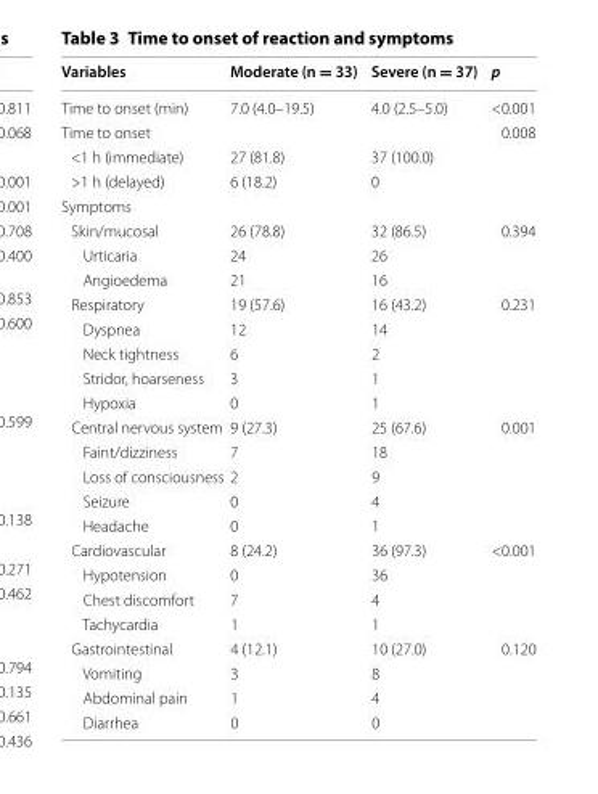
<table><thead><tr><td>Variables</td><td>Moderate (n = 33)</td><td>Severe (n = 37)</td><td>p</td></tr></thead><tbody><tr><td>Time to onset (min)</td><td>7.0 (4.0–19.5)</td><td>4.0 (2.5–5.0)</td><td>&lt;0.001</td></tr><tr><td>Time to onset</td><td></td><td></td><td>0.008</td></tr><tr><td>&lt;1 h (immediate)</td><td>27 (81.8)</td><td>37 (100.0)</td><td></td></tr><tr><td>&gt;1 h (delayed)</td><td>6 (18.2)</td><td>0</td><td></td></tr><tr><td colspan="4">Symptoms</td></tr><tr><td>Skin/mucosal</td><td>26 (78.8)</td><td>32 (86.5)</td><td>0.394</td></tr><tr><td>Urticaria</td><td>24</td><td>26</td><td></td></tr><tr><td>Angioedema</td><td>21</td><td>16</td><td></td></tr><tr><td>Respiratory</td><td>19 (57.6)</td><td>16 (43.2)</td><td>0.231</td></tr><tr><td>Dyspnea</td><td>12</td><td>14</td><td></td></tr><tr><td>Neck tightness</td><td>6</td><td>2</td><td></td></tr><tr><td>Stridor, hoarseness</td><td>3</td><td>1</td><td></td></tr><tr><td>Hypoxia</td><td>0</td><td>1</td><td></td></tr><tr><td>Central nervous system</td><td>9 (27.3)</td><td>25 (67.6)</td><td>0.001</td></tr><tr><td>Faint/dizziness</td><td>7</td><td>18</td><td></td></tr><tr><td>Loss of consciousness</td><td>2</td><td>9</td><td></td></tr><tr><td>Seizure</td><td>0</td><td>4</td><td></td></tr><tr><td>Headache</td><td>0</td><td>1</td><td></td></tr><tr><td>Cardiovascular</td><td>8 (24.2)</td><td>36 (97.3)</td><td>&lt;0.001</td></tr><tr><td>Hypotension</td><td>0</td><td>36</td><td></td></tr><tr><td>Chest discomfort</td><td>7</td><td>4</td><td></td></tr><tr><td>Tachycardia</td><td>1</td><td>1</td><td></td></tr><tr><td>Gastrointestinal</td><td>4 (12.1)</td><td>10 (27.0)</td><td>0.120</td></tr><tr><td>Vomiting</td><td>3</td><td>8</td><td></td></tr><tr><td>Abdominal pain</td><td>1</td><td>4</td><td></td></tr><tr><td>Diarrhea</td><td>0</td><td>0</td><td></td></tr></tbody></table>